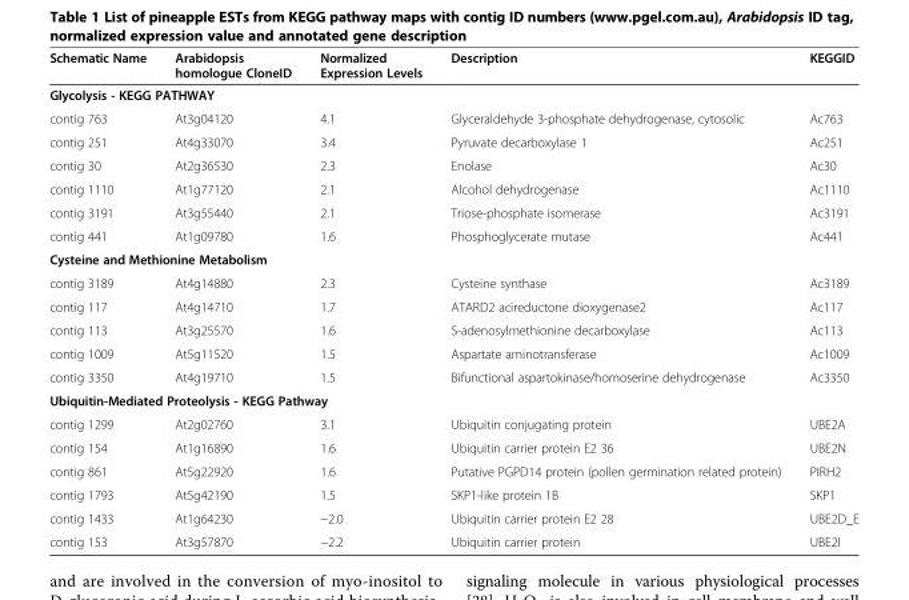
<table><thead><tr><td>Schematic Name</td><td>Arabidopsis homologue CloneID</td><td>Normalized Expression Levels</td><td>Description</td><td>KEGGID</td></tr></thead><tbody><tr><td colspan="5">Glycolysis - KEGG PATHWAY</td></tr><tr><td>contig 763</td><td>At3g04120</td><td>4.1</td><td>Glyceraldehyde 3-phosphate dehydrogenase, cytosolic</td><td>Ac763</td></tr><tr><td>contig 251</td><td>At4g33070</td><td>3.4</td><td>Pyruvate decarboxylase 1</td><td>Ac251</td></tr><tr><td>contig 30</td><td>At2g36530</td><td>2.3</td><td>Enolase</td><td>Ac30</td></tr><tr><td>contig 1110</td><td>At1g77120</td><td>2.1</td><td>Alcohol dehydrogenase</td><td>Ac1110</td></tr><tr><td>contig 3191</td><td>At3g55440</td><td>2.1</td><td>Triose-phosphate isomerase</td><td>Ac3191</td></tr><tr><td>contig 441</td><td>At1g09780</td><td>1.6</td><td>Phosphoglycerate mutase</td><td>Ac441</td></tr><tr><td colspan="5">Cysteine and Methionine Metabolism</td></tr><tr><td>contig 3189</td><td>At4g14880</td><td>2.3</td><td>Cysteine synthase</td><td>Ac3189</td></tr><tr><td>contig 117</td><td>At4g14710</td><td>1.7</td><td>ATARD2 acireductone dioxygenase2</td><td>Ac117</td></tr><tr><td>contig 113</td><td>At3g25570</td><td>1.6</td><td>S-adenosylmethionine decarboxylase</td><td>Ac113</td></tr><tr><td>contig 1009</td><td>At5g11520</td><td>1.5</td><td>Aspartate aminotransferase</td><td>Ac1009</td></tr><tr><td>contig 3350</td><td>At4g19710</td><td>1.5</td><td>Bifunctional aspartokinase/homoserine dehydrogenase</td><td>Ac3350</td></tr><tr><td colspan="5">Ubiquitin-Mediated Proteolysis - KEGG Pathway</td></tr><tr><td>contig 1299</td><td>At2g02760</td><td>3.1</td><td>Ubiquitin conjugating protein</td><td>UBE2A</td></tr><tr><td>contig 154</td><td>At1g16890</td><td>1.6</td><td>Ubiquitin carrier protein E2 36</td><td>UBE2N</td></tr><tr><td>contig 861</td><td>At5g22920</td><td>1.6</td><td>Putative PGPD14 protein (pollen germination related protein)</td><td>PIRH2</td></tr><tr><td>contig 1793</td><td>At5g42190</td><td>1.5</td><td>SKP1-like protein 1B</td><td>SKP1</td></tr><tr><td>contig 1433</td><td>At1g64230</td><td>−2.0</td><td>Ubiquitin carrier protein E2 28</td><td>UBE2D_E</td></tr><tr><td>contig 153</td><td>At3g57870</td><td>−2.2</td><td>Ubiquitin carrier protein</td><td>UBE2I</td></tr></tbody></table>